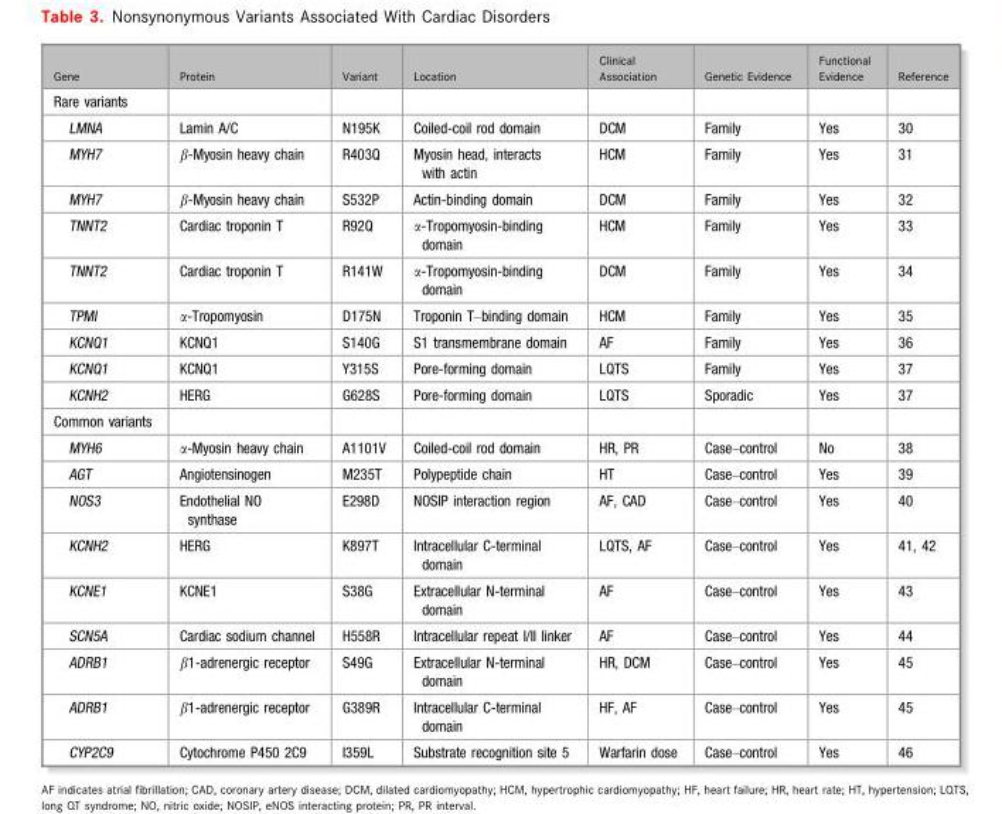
<table><thead><tr><td>Gene</td><td>Protein</td><td>Variant</td><td>Location</td><td>Clinical Association</td><td>Genetic Evidence</td><td>Functional Evidence</td><td>Reference</td></tr></thead><tbody><tr><td colspan="8">Rare variants</td></tr><tr><td>LMNA</td><td>Lamin A/C</td><td>N195K</td><td>Coiled-coil rod domain</td><td>DCM</td><td>Family</td><td>Yes</td><td><sup>30</sup></td></tr><tr><td>MYH7</td><td>β-Myosin heavy chain</td><td>R403Q</td><td>Myosin head, interacts with actin</td><td>HCM</td><td>Family</td><td>Yes</td><td><sup>31</sup></td></tr><tr><td>MYH7</td><td>β-Myosin heavy chain</td><td>S532P</td><td>Actin-binding domain</td><td>DCM</td><td>Family</td><td>Yes</td><td><sup>32</sup></td></tr><tr><td>TNNT2</td><td>Cardiac troponin T</td><td>R92Q</td><td>α-Tropomyosin-binding domain</td><td>HCM</td><td>Family</td><td>Yes</td><td><sup>33</sup></td></tr><tr><td>TNNT2</td><td>Cardiac troponin T</td><td>R141W</td><td>α-Tropomyosin-binding domain</td><td>DCM</td><td>Family</td><td>Yes</td><td><sup>34</sup></td></tr><tr><td>TPMI</td><td>α-Tropomyosin</td><td>D175N</td><td>Troponin T–binding domain</td><td>HCM</td><td>Family</td><td>Yes</td><td><sup>35</sup></td></tr><tr><td>KCNQ1</td><td>KCNQ1</td><td>S140G</td><td>S1 transmembrane domain</td><td>AF</td><td>Family</td><td>Yes</td><td><sup>36</sup></td></tr><tr><td>KCNQ1</td><td>KCNQ1</td><td>Y315S</td><td>Pore-forming domain</td><td>LQTS</td><td>Family</td><td>Yes</td><td><sup>37</sup></td></tr><tr><td>KCNH2</td><td>HERG</td><td>G628S</td><td>Pore-forming domain</td><td>LQTS</td><td>Sporadic</td><td>Yes</td><td><sup>37</sup></td></tr><tr><td colspan="8">Common variants</td></tr><tr><td>MYH6</td><td>α-Myosin heavy chain</td><td>A1101V</td><td>Coiled-coil rod domain</td><td>HR, PR</td><td>Case–control</td><td>No</td><td><sup>38</sup></td></tr><tr><td>AGT</td><td>Angiotensinogen</td><td>M235T</td><td>Polypeptide chain</td><td>HT</td><td>Case–control</td><td>Yes</td><td><sup>39</sup></td></tr><tr><td>NOS3</td><td>Endothelial NO synthase</td><td>E298D</td><td>NOSIP interaction region</td><td>AF, CAD</td><td>Case–control</td><td>Yes</td><td><sup>40</sup></td></tr><tr><td>KCNH2</td><td>HERG</td><td>K897T</td><td>Intracellular C-terminal domain</td><td>LQTS, AF</td><td>Case–control</td><td>Yes</td><td><sup>41, 42</sup></td></tr><tr><td>KCNE1</td><td>KCNE1</td><td>S38G</td><td>Extracellular N-terminal domain</td><td>AF</td><td>Case–control</td><td>Yes</td><td><sup>43</sup></td></tr><tr><td>SCN5A</td><td>Cardiac sodium channel</td><td>H558R</td><td>Intracellular repeat I/II linker</td><td>AF</td><td>Case–control</td><td>Yes</td><td><sup>44</sup></td></tr><tr><td>ADRB1</td><td>β1-adrenergic receptor</td><td>S49G</td><td>Extracellular N-terminal domain</td><td>HR, DCM</td><td>Case–control</td><td>Yes</td><td><sup>45</sup></td></tr><tr><td>ADRB1</td><td>β1-adrenergic receptor</td><td>G389R</td><td>Intracellular C-terminal domain</td><td>HF, AF</td><td>Case–control</td><td>Yes</td><td><sup>45</sup></td></tr><tr><td>CYP2C9</td><td>Cytochrome P450 2C9</td><td>I359L</td><td>Substrate recognition site 5</td><td>Warfarin dose</td><td>Case–control</td><td>Yes</td><td><sup>46</sup></td></tr></tbody></table>